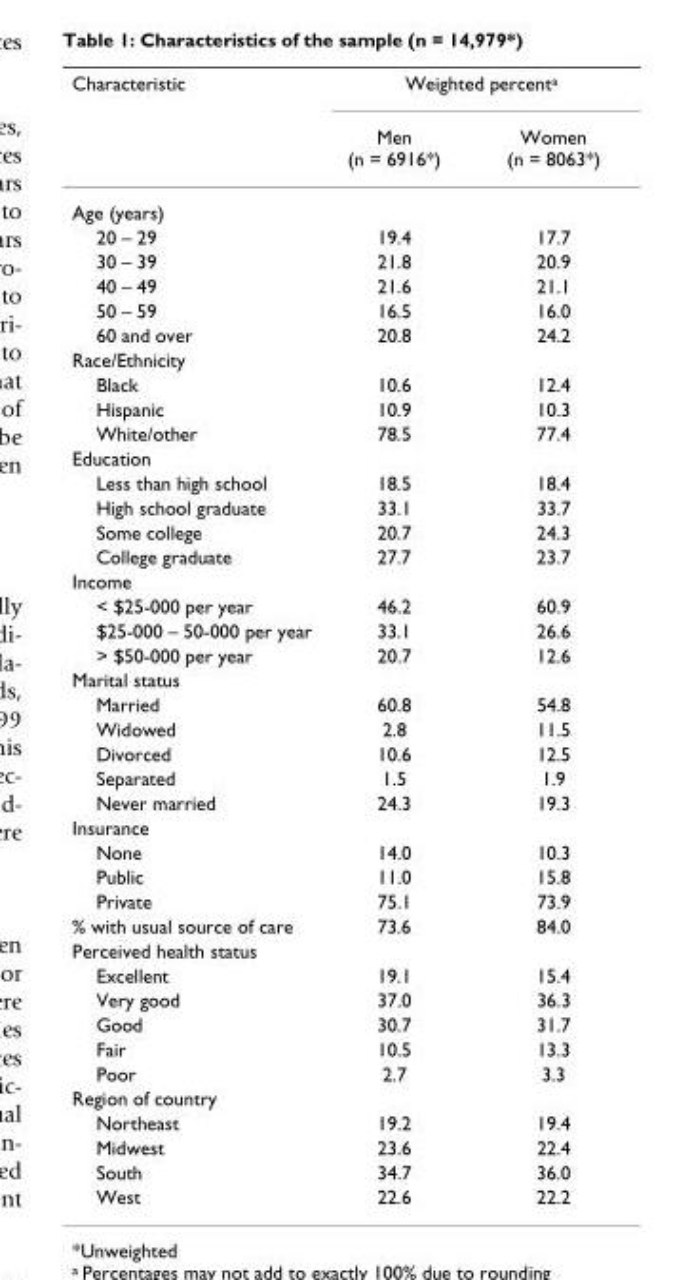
<table><thead><tr><td rowspan="2">Characteristic</td><td colspan="2">Weighted percenta</td></tr><tr><td>Men (n = 6916*)</td><td>Women (n = 8063*)</td></tr></thead><tbody><tr><td colspan="3">Age (years)</td></tr><tr><td>20 – 29</td><td>19.4</td><td>17.7</td></tr><tr><td>30 – 39</td><td>21.8</td><td>20.9</td></tr><tr><td>40 – 49</td><td>21.6</td><td>21.1</td></tr><tr><td>50 – 59</td><td>16.5</td><td>16.0</td></tr><tr><td>60 and over</td><td>20.8</td><td>24.2</td></tr><tr><td colspan="3">Race/Ethnicity</td></tr><tr><td>Black</td><td>10.6</td><td>12.4</td></tr><tr><td>Hispanic</td><td>10.9</td><td>10.3</td></tr><tr><td>White/other</td><td>78.5</td><td>77.4</td></tr><tr><td colspan="3">Education</td></tr><tr><td>Less than high school</td><td>18.5</td><td>18.4</td></tr><tr><td>High school graduate</td><td>33.1</td><td>33.7</td></tr><tr><td>Some college</td><td>20.7</td><td>24.3</td></tr><tr><td>College graduate</td><td>27.7</td><td>23.7</td></tr><tr><td colspan="3">Income</td></tr><tr><td>&lt; $25-000 per year</td><td>46.2</td><td>60.9</td></tr><tr><td>$25-000 – 50-000 per year</td><td>33.1</td><td>26.6</td></tr><tr><td>&gt; $50-000 per year</td><td>20.7</td><td>12.6</td></tr><tr><td colspan="3">Marital status</td></tr><tr><td>Married</td><td>60.8</td><td>54.8</td></tr><tr><td>Widowed</td><td>2.8</td><td>11.5</td></tr><tr><td>Divorced</td><td>10.6</td><td>12.5</td></tr><tr><td>Separated</td><td>1.5</td><td>1.9</td></tr><tr><td>Never married</td><td>24.3</td><td>19.3</td></tr><tr><td colspan="3">Insurance</td></tr><tr><td>None</td><td>14.0</td><td>10.3</td></tr><tr><td>Public</td><td>11.0</td><td>15.8</td></tr><tr><td>Private</td><td>75.1</td><td>73.9</td></tr><tr><td>% with usual source of care</td><td>73.6</td><td>84.0</td></tr><tr><td colspan="3">Perceived health status</td></tr><tr><td>Excellent</td><td>19.1</td><td>15.4</td></tr><tr><td>Very good</td><td>37.0</td><td>36.3</td></tr><tr><td>Good</td><td>30.7</td><td>31.7</td></tr><tr><td>Fair</td><td>10.5</td><td>13.3</td></tr><tr><td>Poor</td><td>2.7</td><td>3.3</td></tr><tr><td colspan="3">Region of country</td></tr><tr><td>Northeast</td><td>19.2</td><td>19.4</td></tr><tr><td>Midwest</td><td>23.6</td><td>22.4</td></tr><tr><td>South</td><td>34.7</td><td>36.0</td></tr><tr><td>West</td><td>22.6</td><td>22.2</td></tr></tbody></table>